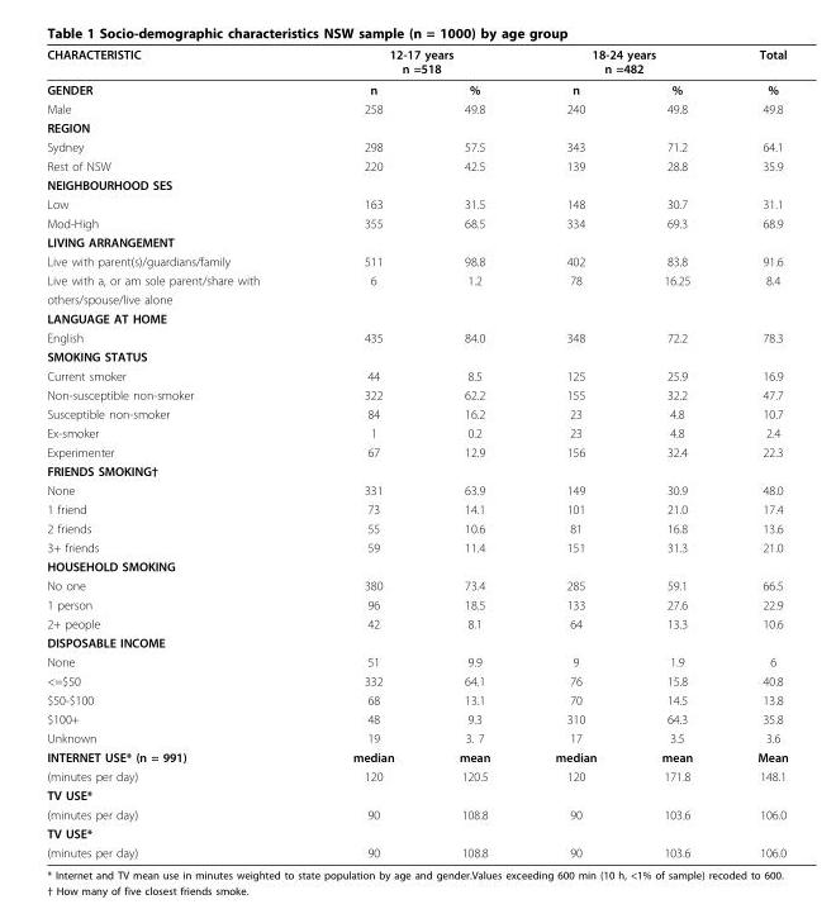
<table><thead><tr><td rowspan="2">CHARACTERISTIC GENDER</td><td colspan="2">12-17 years n =518</td><td colspan="2">18-24 years n =482</td><td rowspan="2">Total %</td></tr><tr><td>n</td><td>%</td><td>n</td><td>%</td></tr></thead><tbody><tr><td>Male</td><td>258</td><td>49.8</td><td>240</td><td>49.8</td><td>49.8</td></tr><tr><td colspan="6">REGION</td></tr><tr><td>Sydney</td><td>298</td><td>57.5</td><td>343</td><td>71.2</td><td>64.1</td></tr><tr><td>Rest of NSW</td><td>220</td><td>42.5</td><td>139</td><td>28.8</td><td>35.9</td></tr><tr><td colspan="6">NEIGHBOURHOOD SES</td></tr><tr><td>Low</td><td>163</td><td>31.5</td><td>148</td><td>30.7</td><td>31.1</td></tr><tr><td>Mod-High</td><td>355</td><td>68.5</td><td>334</td><td>69.3</td><td>68.9</td></tr><tr><td colspan="6">LIVING ARRANGEMENT</td></tr><tr><td>Live with parent(s)/guardians/family</td><td>511</td><td>98.8</td><td>402</td><td>83.8</td><td>91.6</td></tr><tr><td>Live with a, or am sole parent/share with</td><td>6</td><td>1.2</td><td>78</td><td>16.25</td><td>8.4</td></tr><tr><td colspan="6">others/spouse/live alone</td></tr><tr><td colspan="6">LANGUAGE AT HOME</td></tr><tr><td>English</td><td>435</td><td>84.0</td><td>348</td><td>72.2</td><td>78.3</td></tr><tr><td colspan="6">SMOKING STATUS</td></tr><tr><td>Current smoker</td><td>44</td><td>8.5</td><td>125</td><td>25.9</td><td>16.9</td></tr><tr><td>Non-susceptible non-smoker</td><td>322</td><td>62.2</td><td>155</td><td>32.2</td><td>47.7</td></tr><tr><td>Susceptible non-smoker</td><td>84</td><td>16.2</td><td>23</td><td>4.8</td><td>10.7</td></tr><tr><td>Ex-smoker</td><td>1</td><td>0.2</td><td>23</td><td>4.8</td><td>2.4</td></tr><tr><td>Experimenter</td><td>67</td><td>12.9</td><td>156</td><td>32.4</td><td>22.3</td></tr><tr><td colspan="6">FRIENDS SMOKING†</td></tr><tr><td>None</td><td>331</td><td>63.9</td><td>149</td><td>30.9</td><td>48.0</td></tr><tr><td>1 friend</td><td>73</td><td>14.1</td><td>101</td><td>21.0</td><td>17.4</td></tr><tr><td>2 friends</td><td>55</td><td>10.6</td><td>81</td><td>16.8</td><td>13.6</td></tr><tr><td>3+ friends</td><td>59</td><td>11.4</td><td>151</td><td>31.3</td><td>21.0</td></tr><tr><td colspan="6">HOUSEHOLD SMOKING</td></tr><tr><td>No one</td><td>380</td><td>73.4</td><td>285</td><td>59.1</td><td>66.5</td></tr><tr><td>1 person</td><td>96</td><td>18.5</td><td>133</td><td>27.6</td><td>22.9</td></tr><tr><td>2+ people</td><td>42</td><td>8.1</td><td>64</td><td>13.3</td><td>10.6</td></tr><tr><td colspan="6">DISPOSABLE INCOME</td></tr><tr><td>None</td><td>51</td><td>9.9</td><td>9</td><td>1.9</td><td>6</td></tr><tr><td>&lt;=$50</td><td>332</td><td>64.1</td><td>76</td><td>15.8</td><td>40.8</td></tr><tr><td>$50-$100</td><td>68</td><td>13.1</td><td>70</td><td>14.5</td><td>13.8</td></tr><tr><td>$100+</td><td>48</td><td>9.3</td><td>310</td><td>64.3</td><td>35.8</td></tr><tr><td>Unknown</td><td>19</td><td>3. 7</td><td>17</td><td>3.5</td><td>3.6</td></tr><tr><td>INTERNET USE* (n = 991)</td><td>median</td><td>mean</td><td>median</td><td>mean</td><td>Mean</td></tr><tr><td>(minutes per day)</td><td>120</td><td>120.5</td><td>120</td><td>171.8</td><td>148.1</td></tr><tr><td colspan="6">TV USE*</td></tr><tr><td>(minutes per day)</td><td>90</td><td>108.8</td><td>90</td><td>103.6</td><td>106.0</td></tr><tr><td colspan="6">TV USE*</td></tr><tr><td>(minutes per day)</td><td>90</td><td>108.8</td><td>90</td><td>103.6</td><td>106.0</td></tr></tbody></table>